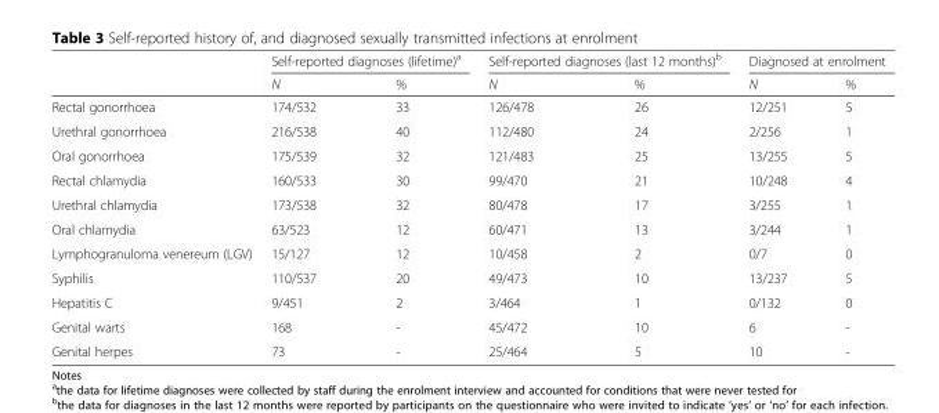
<table><thead><tr><td rowspan="2"></td><td colspan="2">Self-reported diagnoses (lifetime)<sup>a</sup></td><td colspan="2">Self-reported diagnoses (last 12 months)<sup>b</sup></td><td colspan="2">Diagnosed at enrolment</td></tr><tr><td>N</td><td>%</td><td>N</td><td>%</td><td>N</td><td>%</td></tr></thead><tbody><tr><td>Rectal gonorrhoea</td><td>174/532</td><td>33</td><td>126/478</td><td>26</td><td>12/251</td><td>5</td></tr><tr><td>Urethral gonorrhoea</td><td>216/538</td><td>40</td><td>112/480</td><td>24</td><td>2/256</td><td>1</td></tr><tr><td>Oral gonorrhoea</td><td>175/539</td><td>32</td><td>121/483</td><td>25</td><td>13/255</td><td>5</td></tr><tr><td>Rectal chlamydia</td><td>160/533</td><td>30</td><td>99/470</td><td>21</td><td>10/248</td><td>4</td></tr><tr><td>Urethral chlamydia</td><td>173/538</td><td>32</td><td>80/478</td><td>17</td><td>3/255</td><td>1</td></tr><tr><td>Oral chlamydia</td><td>63/523</td><td>12</td><td>60/471</td><td>13</td><td>3/244</td><td>1</td></tr><tr><td>Lymphogranuloma venereum (LGV)</td><td>15/127</td><td>12</td><td>10/458</td><td>2</td><td>0/7</td><td>0</td></tr><tr><td>Syphilis</td><td>110/537</td><td>20</td><td>49/473</td><td>10</td><td>13/237</td><td>5</td></tr><tr><td>Hepatitis C</td><td>9/451</td><td>2</td><td>3/464</td><td>1</td><td>0/132</td><td>0</td></tr><tr><td>Genital warts</td><td>168</td><td>-</td><td>45/472</td><td>10</td><td>6</td><td>-</td></tr><tr><td>Genital herpes</td><td>73</td><td>-</td><td>25/464</td><td>5</td><td>10</td><td>-</td></tr></tbody></table>